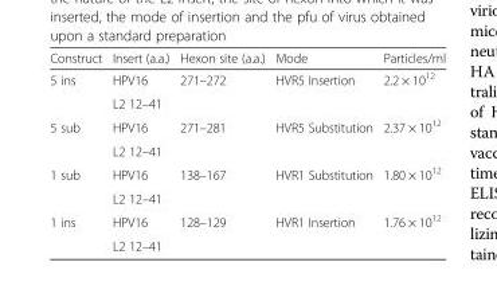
<table><thead><tr><td>Construct</td><td>Insert (a.a.)</td><td>Hexon site (a.a.)</td><td>Mode</td><td>Particles/ml</td></tr></thead><tbody><tr><td rowspan="2">5 ins</td><td>HPV16</td><td rowspan="2">271–272</td><td rowspan="2">HVR5 Insertion</td><td rowspan="2">2.2 × 10<sup>12</sup></td></tr><tr><td>L2 12–41</td></tr><tr><td rowspan="2">5 sub</td><td>HPV16</td><td rowspan="2">271–281</td><td rowspan="2">HVR5 Substitution</td><td rowspan="2">2.37 × 10<sup>12</sup></td></tr><tr><td>L2 12–41</td></tr><tr><td rowspan="2">1 sub</td><td>HPV16</td><td rowspan="2">138–167</td><td rowspan="2">HVR1 Substitution</td><td rowspan="2">1.80 × 10<sup>12</sup></td></tr><tr><td>L2 12–41</td></tr><tr><td rowspan="2">1 ins</td><td>HPV16</td><td rowspan="2">128–129</td><td rowspan="2">HVR1 Insertion</td><td rowspan="2">1.76 × 10<sup>12</sup></td></tr><tr><td>L2 12–41</td></tr></tbody></table>